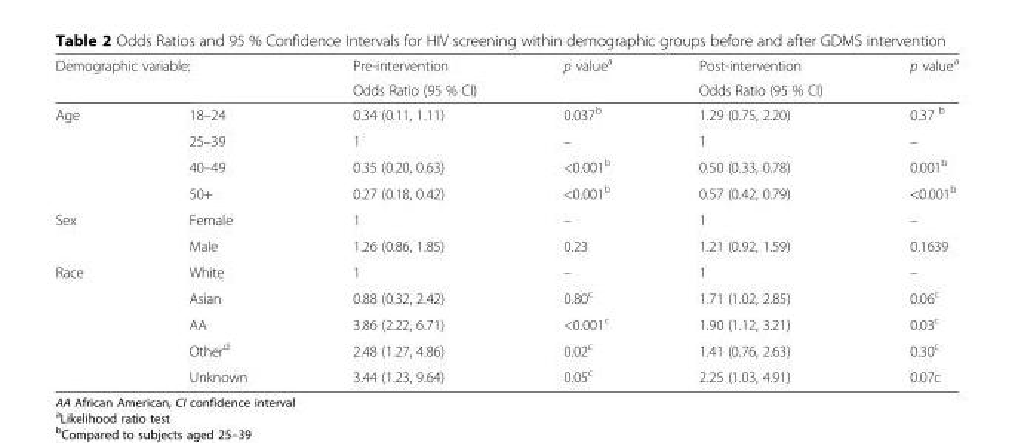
<table><thead><tr><td colspan="2">Demographic variable:</td><td rowspan="2">Pre-intervention Odds Ratio (95 % CI)</td><td rowspan="2">p value<sup>a</sup></td><td rowspan="2">Post-intervention Odds Ratio (95 % CI)</td><td rowspan="2">p value<sup>a</sup></td></tr><tr><td></td><td></td></tr></thead><tbody><tr><td rowspan="4">Age</td><td>18–24</td><td>0.34 (0.11, 1.11)</td><td>0.037<sup>b</sup></td><td>1.29 (0.75, 2.20)</td><td>0.37 <sup>b</sup></td></tr><tr><td>25–39</td><td>1</td><td>–</td><td>1</td><td>–</td></tr><tr><td>40–49</td><td>0.35 (0.20, 0.63)</td><td>&lt;0.001<sup>b</sup></td><td>0.50 (0.33, 0.78)</td><td>0.001<sup>b</sup></td></tr><tr><td>50+</td><td>0.27 (0.18, 0.42)</td><td>&lt;0.001<sup>b</sup></td><td>0.57 (0.42, 0.79)</td><td>&lt;0.001<sup>b</sup></td></tr><tr><td rowspan="2">Sex</td><td>Female</td><td>1</td><td>–</td><td>1</td><td>–</td></tr><tr><td>Male</td><td>1.26 (0.86, 1.85)</td><td>0.23</td><td>1.21 (0.92, 1.59)</td><td>0.1639</td></tr><tr><td rowspan="5">Race</td><td>White</td><td>1</td><td>–</td><td>1</td><td>–</td></tr><tr><td>Asian</td><td>0.88 (0.32, 2.42)</td><td>0.80<sup>c</sup></td><td>1.71 (1.02, 2.85)</td><td>0.06<sup>c</sup></td></tr><tr><td>AA</td><td>3.86 (2.22, 6.71)</td><td>&lt;0.001<sup>c</sup></td><td>1.90 (1.12, 3.21)</td><td>0.03<sup>c</sup></td></tr><tr><td>Other<sup>d</sup></td><td>2.48 (1.27, 4.86)</td><td>0.02<sup>c</sup></td><td>1.41 (0.76, 2.63)</td><td>0.30<sup>c</sup></td></tr><tr><td>Unknown</td><td>3.44 (1.23, 9.64)</td><td>0.05<sup>c</sup></td><td>2.25 (1.03, 4.91)</td><td>0.07c</td></tr></tbody></table>